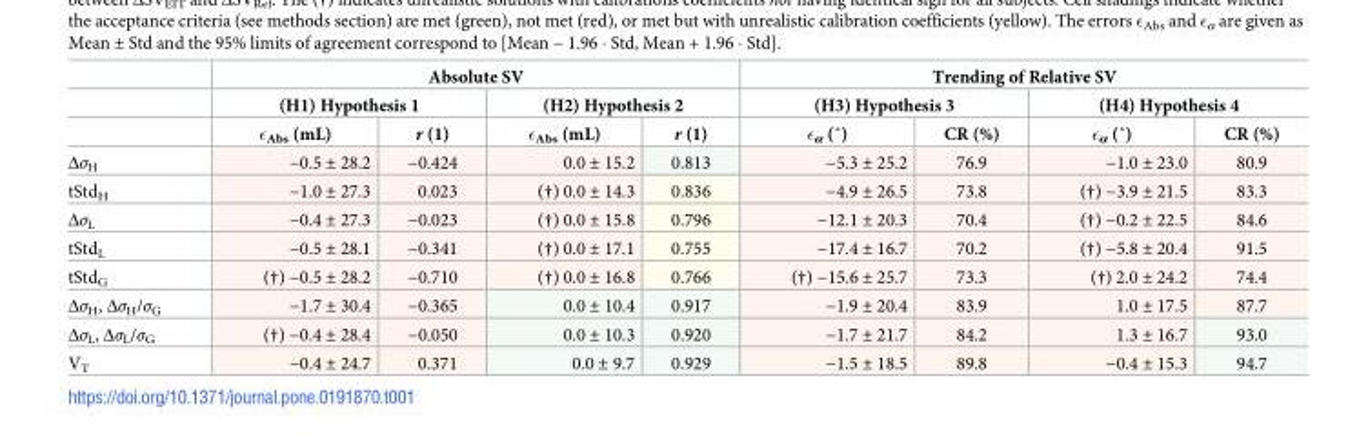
<table><thead><tr><td rowspan="3"></td><td colspan="4">Absolute SV</td><td colspan="4">Trending of Relative SV</td></tr><tr><td colspan="2">(H1) Hypothesis 1</td><td colspan="2">(H2) Hypothesis 2</td><td colspan="2">(H3) Hypothesis 3</td><td colspan="2">(H4) Hypothesis 4</td></tr><tr><td>ϵ<sub>Abs</sub> (mL)</td><td>r (1)</td><td>ϵ<sub>Abs</sub> (mL)</td><td>r (1)</td><td>ϵα (˚)</td><td>CR (%)</td><td>ϵα (˚)</td><td>CR (%)</td></tr></thead><tbody><tr><td>Δσ<sub>H</sub></td><td>−0.5 ± 28.2</td><td>−0.424</td><td>0.0 ± 15.2</td><td>0.813</td><td>−5.3 ± 25.2</td><td>76.9</td><td>−1.0 ± 23.0</td><td>80.9</td></tr><tr><td>tStd<sub>H</sub></td><td>−1.0 ± 27.3</td><td>0.023</td><td>(†) 0.0 ± 14.3</td><td>0.836</td><td>−4.9 ± 26.5</td><td>73.8</td><td>(†) −3.9 ± 21.5</td><td>83.3</td></tr><tr><td>Δσ<sub>L</sub></td><td>−0.4 ± 27.3</td><td>−0.023</td><td>(†) 0.0 ± 15.8</td><td>0.796</td><td>−12.1 ± 20.3</td><td>70.4</td><td>(†) −0.2 ± 22.5</td><td>84.6</td></tr><tr><td>tStd<sub>L</sub></td><td>−0.5 ± 28.1</td><td>−0.341</td><td>(†) 0.0 ± 17.1</td><td>0.755</td><td>−17.4 ± 16.7</td><td>70.2</td><td>(†) −5.8 ± 20.4</td><td>91.5</td></tr><tr><td>tStd<sub>G</sub></td><td>(†) −0.5 ± 28.2</td><td>−0.710</td><td>(†) 0.0 ± 16.8</td><td>0.766</td><td>(†) −15.6 ± 25.7</td><td>73.3</td><td>(†) 2.0 ± 24.2</td><td>74.4</td></tr><tr><td>Δσ<sub>H</sub>, Δσ<sub>H</sub>/σ<sub>G</sub></td><td>−1.7 ± 30.4</td><td>−0.365</td><td>0.0 ± 10.4</td><td>0.917</td><td>−1.9 ± 20.4</td><td>83.9</td><td>1.0 ± 17.5</td><td>87.7</td></tr><tr><td>Δσ<sub>L</sub>, Δσ<sub>L</sub>/σ<sub>G</sub></td><td>(†) −0.4 ± 28.4</td><td>−0.050</td><td>0.0 ± 10.3</td><td>0.920</td><td>−1.7 ± 21.7</td><td>84.2</td><td>1.3 ± 16.7</td><td>93.0</td></tr><tr><td>V<sub>T</sub></td><td>−0.4 ± 24.7</td><td>0.371</td><td>0.0 ± 9.7</td><td>0.929</td><td>−1.5 ± 18.5</td><td>89.8</td><td>−0.4 ± 15.3</td><td>94.7</td></tr></tbody></table>